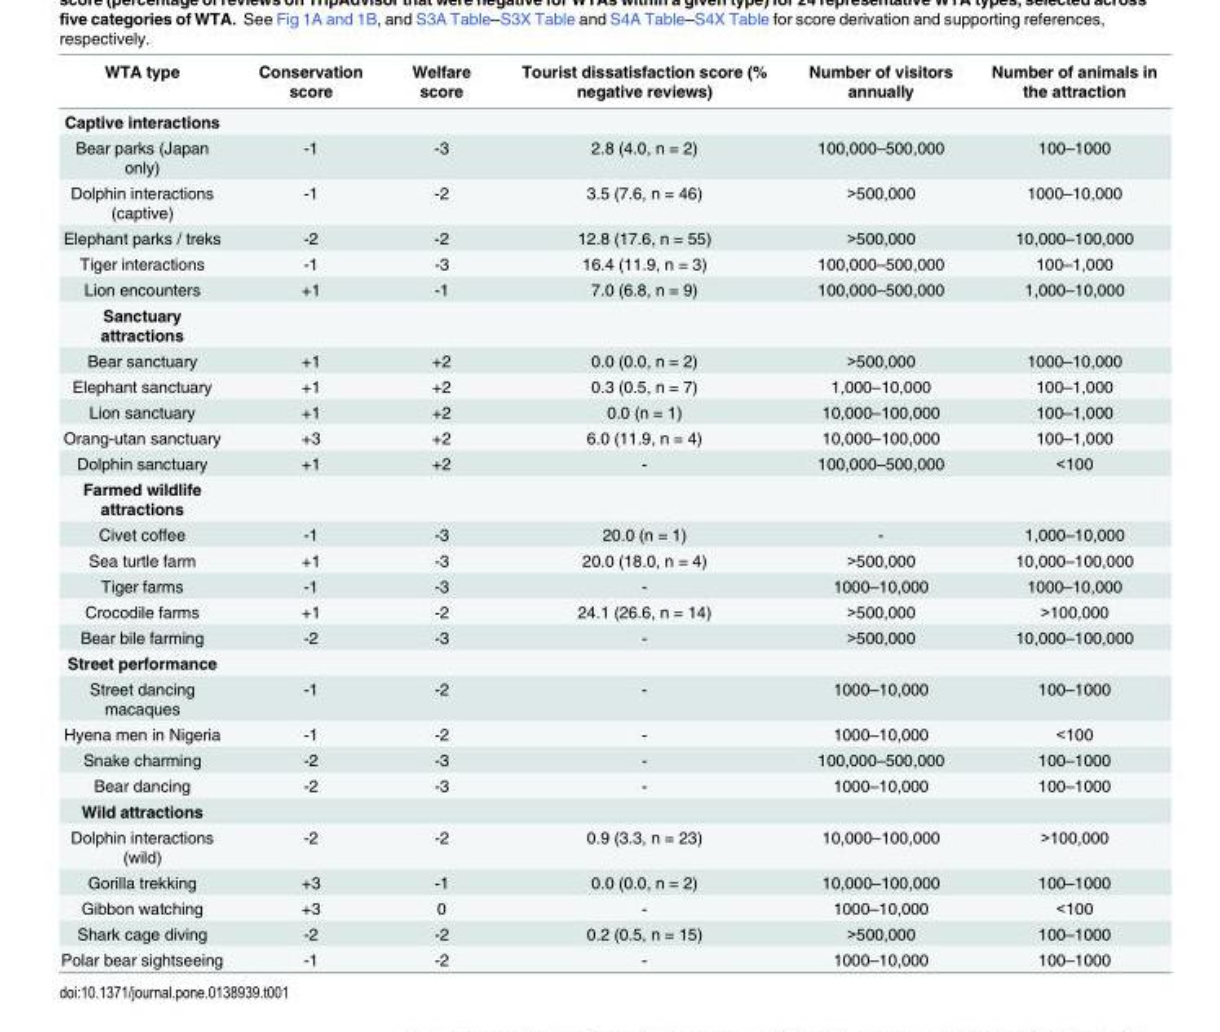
<table><thead><tr><td>WTA type</td><td>Conservation score</td><td>Welfare score</td><td>Tourist dissatisfaction score (% negative reviews)</td><td>Number of visitors annually</td><td>Number of animals in the attraction</td></tr></thead><tbody><tr><td colspan="6">Captive interactions</td></tr><tr><td>Bear parks (Japan only)</td><td>-1</td><td>-3</td><td>2.8 (4.0, n = 2)</td><td>100,000–500,000</td><td>100–1000</td></tr><tr><td>Dolphin interactions (captive)</td><td>-1</td><td>-2</td><td>3.5 (7.6, n = 46)</td><td>&gt;500,000</td><td>1000–10,000</td></tr><tr><td>Elephant parks / treks</td><td>-2</td><td>-2</td><td>12.8 (17.6, n = 55)</td><td>&gt;500,000</td><td>10,000–100,000</td></tr><tr><td>Tiger interactions</td><td>-1</td><td>-3</td><td>16.4 (11.9, n = 3)</td><td>100,000–500,000</td><td>100–1,000</td></tr><tr><td>Lion encounters</td><td>+1</td><td>-1</td><td>7.0 (6.8, n = 9)</td><td>100,000–500,000</td><td>1,000–10,000</td></tr><tr><td colspan="6">Sanctuary attractions</td></tr><tr><td>Bear sanctuary</td><td>+1</td><td>+2</td><td>0.0 (0.0, n = 2)</td><td>&gt;500,000</td><td>1000–10,000</td></tr><tr><td>Elephant sanctuary</td><td>+1</td><td>+2</td><td>0.3 (0.5, n = 7)</td><td>1,000–10,000</td><td>100–1,000</td></tr><tr><td>Lion sanctuary</td><td>+1</td><td>+2</td><td>0.0 (n = 1)</td><td>10,000–100,000</td><td>100–1,000</td></tr><tr><td>Orang-utan sanctuary</td><td>+3</td><td>+2</td><td>6.0 (11.9, n = 4)</td><td>10,000–100,000</td><td>100–1,000</td></tr><tr><td>Dolphin sanctuary</td><td>+1</td><td>+2</td><td>-</td><td>100,000–500,000</td><td>&lt;100</td></tr><tr><td colspan="6">Farmed wildlife attractions</td></tr><tr><td>Civet coffee</td><td>-1</td><td>-3</td><td>20.0 (n = 1)</td><td>-</td><td>1,000–10,000</td></tr><tr><td>Sea turtle farm</td><td>+1</td><td>-3</td><td>20.0 (18.0, n = 4)</td><td>&gt;500,000</td><td>10,000–100,000</td></tr><tr><td>Tiger farms</td><td>-1</td><td>-3</td><td>-</td><td>1000–10,000</td><td>1000–10,000</td></tr><tr><td>Crocodile farms</td><td>+1</td><td>-2</td><td>24.1 (26.6, n = 14)</td><td>&gt;500,000</td><td>&gt;100,000</td></tr><tr><td>Bear bile farming</td><td>-2</td><td>-3</td><td>-</td><td>&gt;500,000</td><td>10,000–100,000</td></tr><tr><td colspan="6">Street performance</td></tr><tr><td>Street dancing macaques</td><td>-1</td><td>-2</td><td>-</td><td>1000–10,000</td><td>100–1000</td></tr><tr><td>Hyena men in Nigeria</td><td>-1</td><td>-2</td><td>-</td><td>1000–10,000</td><td>&lt;100</td></tr><tr><td>Snake charming</td><td>-2</td><td>-3</td><td>-</td><td>100,000–500,000</td><td>100–1000</td></tr><tr><td>Bear dancing</td><td>-2</td><td>-3</td><td>-</td><td>1000–10,000</td><td>100–1000</td></tr><tr><td colspan="6">Wild attractions</td></tr><tr><td>Dolphin interactions (wild)</td><td>-2</td><td>-2</td><td>0.9 (3.3, n = 23)</td><td>10,000–100,000</td><td>&gt;100,000</td></tr><tr><td>Gorilla trekking</td><td>+3</td><td>-1</td><td>0.0 (0.0, n = 2)</td><td>10,000–100,000</td><td>100–1000</td></tr><tr><td>Gibbon watching</td><td>+3</td><td>0</td><td>-</td><td>1000–10,000</td><td>&lt;100</td></tr><tr><td>Shark cage diving</td><td>-2</td><td>-2</td><td>0.2 (0.5, n = 15)</td><td>&gt;500,000</td><td>100–1000</td></tr><tr><td>Polar bear sightseeing</td><td>-1</td><td>-2</td><td>-</td><td>1000–10,000</td><td>100–1000</td></tr></tbody></table>